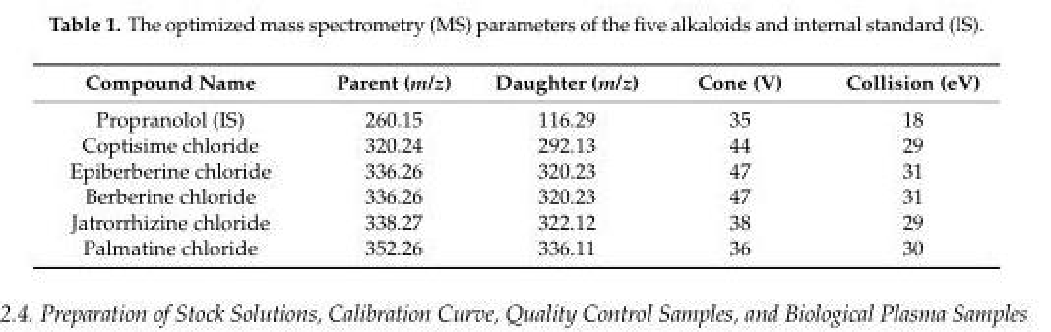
<table><thead><tr><td>Compound Name</td><td>Parent (m/z)</td><td>Daughter (m/z)</td><td>Cone (V)</td><td>Collision (eV)</td></tr></thead><tbody><tr><td>Propranolol (IS)</td><td>260.15</td><td>116.29</td><td>35</td><td>18</td></tr><tr><td>Coptisime chloride</td><td>320.24</td><td>292.13</td><td>44</td><td>29</td></tr><tr><td>Epiberberine chloride</td><td>336.26</td><td>320.23</td><td>47</td><td>31</td></tr><tr><td>Berberine chloride</td><td>336.26</td><td>320.23</td><td>47</td><td>31</td></tr><tr><td>Jatrorrhizine chloride</td><td>338.27</td><td>322.12</td><td>38</td><td>29</td></tr><tr><td>Palmatine chloride</td><td>352.26</td><td>336.11</td><td>36</td><td>30</td></tr></tbody></table>